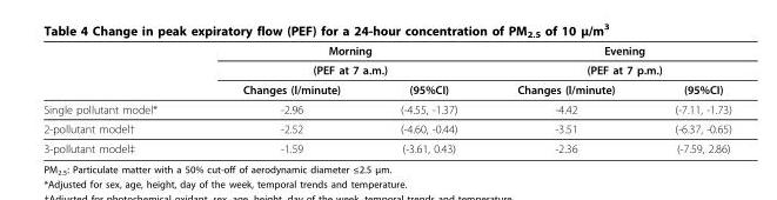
<table><thead><tr><td rowspan="3"></td><td rowspan="2" colspan="2">Morning (PEF at 7 a.m.)</td><td rowspan="2" colspan="2">Evening (PEF at 7 p.m.)</td></tr><tr></tr><tr><td>Changes (l/minute)</td><td>(95%CI)</td><td>Changes (l/minute)</td><td>(95%CI)</td></tr></thead><tbody><tr><td>Single pollutant model*</td><td>-2.96</td><td>(-4.55, -1.37)</td><td>-4.42</td><td>(-7.11, -1.73)</td></tr><tr><td>2-pollutant model†</td><td>-2.52</td><td>(-4.60, -0.44)</td><td>-3.51</td><td>(-6.37, -0.65)</td></tr><tr><td>3-pollutant model‡</td><td>-1.59</td><td>(-3.61, 0.43)</td><td>-2.36</td><td>(-7.59, 2.86)</td></tr></tbody></table>